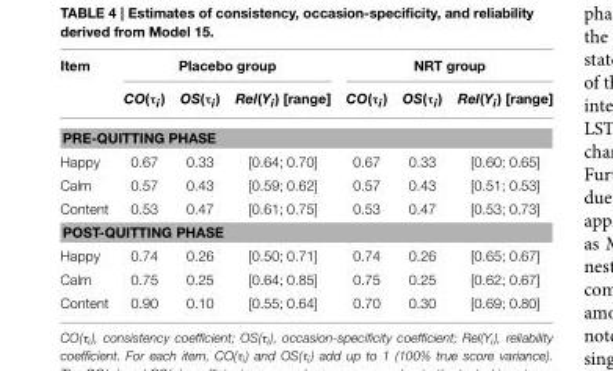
<table><thead><tr><td rowspan="2">Item</td><td colspan="3">Placebo group</td><td colspan="3">NRT group</td></tr><tr><td>CO(τ<sub>i</sub>)</td><td>OS(τ<sub>i</sub>)</td><td>Rel(Y<sub>i</sub>) [range]</td><td>CO(τ<sub>i</sub>)</td><td>OS(τ<sub>i</sub>)</td><td>Rel(Y<sub>i</sub>) [range]</td></tr></thead><tbody><tr><td colspan="7">PRE-QUITTING PHASE</td></tr><tr><td>Happy</td><td>0.67</td><td>0.33</td><td>[0.64; 0.70]</td><td>0.67</td><td>0.33</td><td>[0.60; 0.65]</td></tr><tr><td>Calm</td><td>0.57</td><td>0.43</td><td>[0.59; 0.62]</td><td>0.57</td><td>0.43</td><td>[0.51; 0.53]</td></tr><tr><td>Content</td><td>0.53</td><td>0.47</td><td>[0.61; 0.75]</td><td>0.53</td><td>0.47</td><td>[0.53; 0.73]</td></tr><tr><td colspan="7">POST-QUITTING PHASE</td></tr><tr><td>Happy</td><td>0.74</td><td>0.26</td><td>[0.50; 0.71]</td><td>0.74</td><td>0.26</td><td>[0.65; 0.67]</td></tr><tr><td>Calm</td><td>0.75</td><td>0.25</td><td>[0.64; 0.85]</td><td>0.75</td><td>0.25</td><td>[0.62; 0.67]</td></tr><tr><td>Content</td><td>0.90</td><td>0.10</td><td>[0.55; 0.64]</td><td>0.70</td><td>0.30</td><td>[0.69; 0.80]</td></tr></tbody></table>